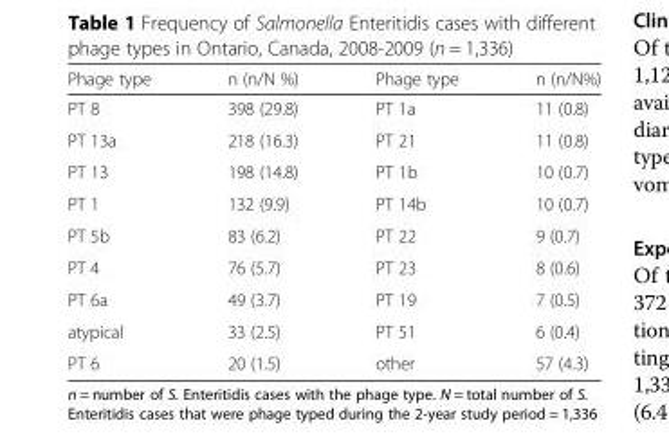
<table><thead><tr><td>Phage type</td><td>n (n/N %)</td><td>Phage type</td><td>n (n/N%)</td></tr></thead><tbody><tr><td>PT 8</td><td>398 (29.8)</td><td>PT 1a</td><td>11 (0.8)</td></tr><tr><td>PT 13a</td><td>218 (16.3)</td><td>PT 21</td><td>11 (0.8)</td></tr><tr><td>PT 13</td><td>198 (14.8)</td><td>PT 1b</td><td>10 (0.7)</td></tr><tr><td>PT 1</td><td>132 (9.9)</td><td>PT 14b</td><td>10 (0.7)</td></tr><tr><td>PT 5b</td><td>83 (6.2)</td><td>PT 22</td><td>9 (0.7)</td></tr><tr><td>PT 4</td><td>76 (5.7)</td><td>PT 23</td><td>8 (0.6)</td></tr><tr><td>PT 6a</td><td>49 (3.7)</td><td>PT 19</td><td>7 (0.5)</td></tr><tr><td>atypical</td><td>33 (2.5)</td><td>PT 51</td><td>6 (0.4)</td></tr><tr><td>PT 6</td><td>20 (1.5)</td><td>other</td><td>57 (4.3)</td></tr></tbody></table>